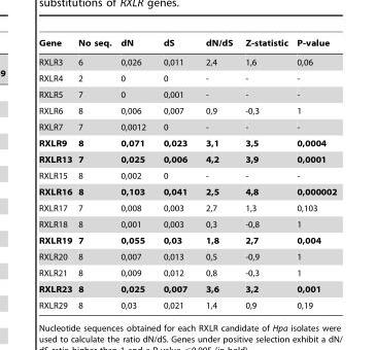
<table><thead><tr><td>Gene</td><td>No seq.</td><td>dN</td><td>dS</td><td>dN/dS</td><td>Z-statistic</td><td>P-value</td></tr></thead><tbody><tr><td>RXLR3</td><td>6</td><td>0,026</td><td>0,011</td><td>2,4</td><td>1,6</td><td>0,06</td></tr><tr><td>RXLR4</td><td>2</td><td>0</td><td>0</td><td>-</td><td>-</td><td>-</td></tr><tr><td>RXLR5</td><td>7</td><td>0</td><td>0,001</td><td>-</td><td>-</td><td>-</td></tr><tr><td>RXLR6</td><td>8</td><td>0,006</td><td>0,007</td><td>0,9</td><td>-0,3</td><td>1</td></tr><tr><td>RXLR7</td><td>7</td><td>0,0012</td><td>0</td><td>-</td><td>-</td><td>-</td></tr><tr><td>RXLR9</td><td>8</td><td>0,071</td><td>0,023</td><td>3,1</td><td>3,5</td><td>0,0004</td></tr><tr><td>RXLR13</td><td>7</td><td>0,025</td><td>0,006</td><td>4,2</td><td>3,9</td><td>0,0001</td></tr><tr><td>RXLR15</td><td>8</td><td>0,002</td><td>0</td><td>-</td><td>-</td><td>-</td></tr><tr><td>RXLR16</td><td>8</td><td>0,103</td><td>0,041</td><td>2,5</td><td>4,8</td><td>0,000002</td></tr><tr><td>RXLR17</td><td>7</td><td>0,008</td><td>0,003</td><td>2,7</td><td>1,3</td><td>0,103</td></tr><tr><td>RXLR18</td><td>8</td><td>0,001</td><td>0,003</td><td>0,3</td><td>-0,8</td><td>1</td></tr><tr><td>RXLR19</td><td>7</td><td>0,055</td><td>0,03</td><td>1,8</td><td>2,7</td><td>0,004</td></tr><tr><td>RXLR20</td><td>8</td><td>0,007</td><td>0,013</td><td>0,5</td><td>-0,9</td><td>1</td></tr><tr><td>RXLR21</td><td>8</td><td>0,009</td><td>0,012</td><td>0,8</td><td>-0,3</td><td>1</td></tr><tr><td>RXLR23</td><td>8</td><td>0,025</td><td>0,007</td><td>3,6</td><td>3,2</td><td>0,001</td></tr><tr><td>RXLR29</td><td>8</td><td>0,03</td><td>0,021</td><td>1,4</td><td>0,9</td><td>0,19</td></tr></tbody></table>